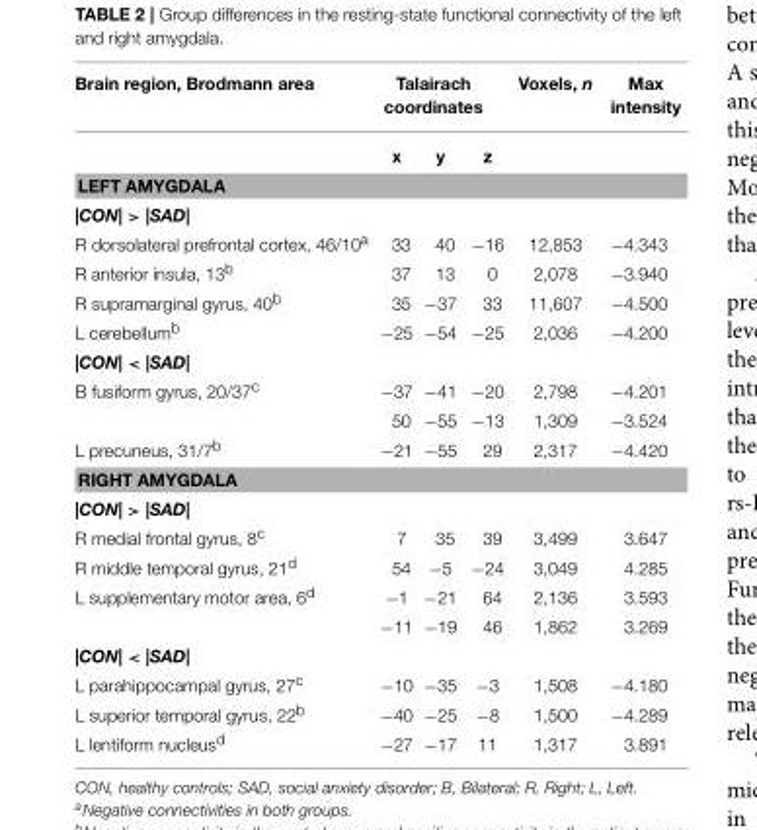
<table><thead><tr><td rowspan="2">Brain region, Brodmann area</td><td colspan="3">Talairach coordinates</td><td rowspan="2">Voxels, n</td><td rowspan="2">Max intensity</td></tr><tr><td>x</td><td>y</td><td>z</td></tr></thead><tbody><tr><td colspan="6">LEFT AMYGDALA</td></tr><tr><td colspan="6">|CON| &gt; |SAD|</td></tr><tr><td>R dorsolateral prefrontal cortex, 46/10<sup>a</sup></td><td>33</td><td>40</td><td>−16</td><td>12,853</td><td>−4.343</td></tr><tr><td>R anterior insula, 13<sup>b</sup></td><td>37</td><td>13</td><td>0</td><td>2,078</td><td>−3.940</td></tr><tr><td>R supramarginal gyrus, 40<sup>b</sup></td><td>35</td><td>−37</td><td>33</td><td>11,607</td><td>−4.500</td></tr><tr><td>L cerebellum<sup>b</sup></td><td>−25</td><td>−54</td><td>−25</td><td>2,036</td><td>−4.200</td></tr><tr><td colspan="6">|CON| &lt; |SAD|</td></tr><tr><td rowspan="2">B fusiform gyrus, 20/37<sup>c</sup></td><td>−37</td><td>−41</td><td>−20</td><td>2,798</td><td>−4.201</td></tr><tr><td>50</td><td>−55</td><td>−13</td><td>1,309</td><td>−3.524</td></tr><tr><td>L precuneus, 31/7<sup>b</sup></td><td>−21</td><td>−55</td><td>29</td><td>2,317</td><td>−4.420</td></tr><tr><td colspan="6">RIGHT AMYGDALA</td></tr><tr><td colspan="6">|CON| &gt; |SAD|</td></tr><tr><td>R medial frontal gyrus, 8<sup>c</sup></td><td>7</td><td>35</td><td>39</td><td>3,499</td><td>3.647</td></tr><tr><td>R middle temporal gyrus, 21<sup>d</sup></td><td>54</td><td>−5</td><td>−24</td><td>3,049</td><td>4.285</td></tr><tr><td rowspan="2">L supplementary motor area, 6<sup>d</sup></td><td>−1</td><td>−21</td><td>64</td><td>2,136</td><td>3.593</td></tr><tr><td>−11</td><td>−19</td><td>46</td><td>1,862</td><td>3.269</td></tr><tr><td colspan="6">|CON| &lt; |SAD|</td></tr><tr><td>L parahippocampal gyrus, 27<sup>c</sup></td><td>−10</td><td>−35</td><td>−3</td><td>1,508</td><td>−4.180</td></tr><tr><td>L superior temporal gyrus, 22<sup>b</sup></td><td>−40</td><td>−25</td><td>−8</td><td>1,500</td><td>−4.289</td></tr><tr><td>L lentiform nucleus<sup>d</sup></td><td>−27</td><td>−17</td><td>11</td><td>1,317</td><td>3.891</td></tr></tbody></table>